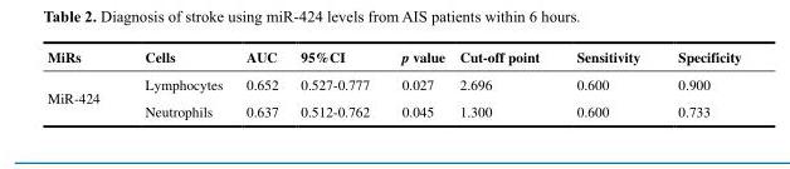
<table><thead><tr><td>MiRs</td><td>Cells</td><td>AUC</td><td>95%CI</td><td>p value</td><td>Cut-off point</td><td>Sensitivity</td><td>Specificity</td></tr></thead><tbody><tr><td rowspan="2">MiR-424</td><td>Lymphocytes</td><td>0.652</td><td>0.527-0.777</td><td>0.027</td><td>2.696</td><td>0.600</td><td>0.900</td></tr><tr><td>Neutrophils</td><td>0.637</td><td>0.512-0.762</td><td>0.045</td><td>1.300</td><td>0.600</td><td>0.733</td></tr></tbody></table>